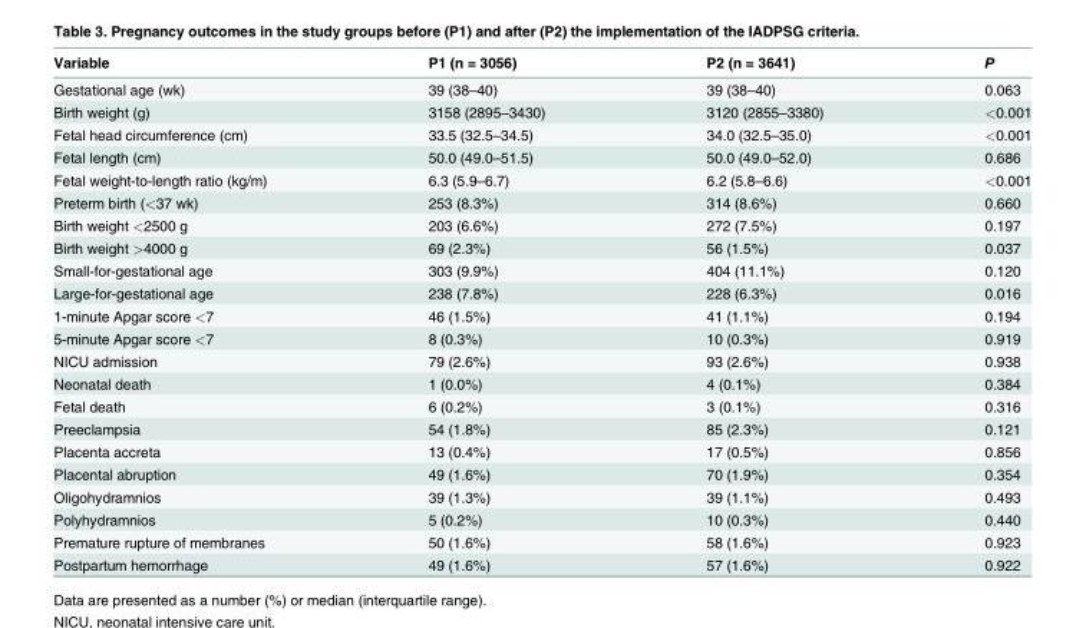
<table><thead><tr><td>Variable</td><td>P1 (n = 3056)</td><td>P2 (n = 3641)</td><td>P</td></tr></thead><tbody><tr><td>Gestational age (wk)</td><td>39 (38–40)</td><td>39 (38–40)</td><td>0.063</td></tr><tr><td>Birth weight (g)</td><td>3158 (2895–3430)</td><td>3120 (2855–3380)</td><td>&lt;0.001</td></tr><tr><td>Fetal head circumference (cm)</td><td>33.5 (32.5–34.5)</td><td>34.0 (32.5–35.0)</td><td>&lt;0.001</td></tr><tr><td>Fetal length (cm)</td><td>50.0 (49.0–51.5)</td><td>50.0 (49.0–52.0)</td><td>0.686</td></tr><tr><td>Fetal weight-to-length ratio (kg/m)</td><td>6.3 (5.9–6.7)</td><td>6.2 (5.8–6.6)</td><td>&lt;0.001</td></tr><tr><td>Preterm birth (&lt;37 wk)</td><td>253 (8.3%)</td><td>314 (8.6%)</td><td>0.660</td></tr><tr><td>Birth weight &lt;2500 g</td><td>203 (6.6%)</td><td>272 (7.5%)</td><td>0.197</td></tr><tr><td>Birth weight &gt;4000 g</td><td>69 (2.3%)</td><td>56 (1.5%)</td><td>0.037</td></tr><tr><td>Small-for-gestational age</td><td>303 (9.9%)</td><td>404 (11.1%)</td><td>0.120</td></tr><tr><td>Large-for-gestational age</td><td>238 (7.8%)</td><td>228 (6.3%)</td><td>0.016</td></tr><tr><td>1-minute Apgar score &lt;7</td><td>46 (1.5%)</td><td>41 (1.1%)</td><td>0.194</td></tr><tr><td>5-minute Apgar score &lt;7</td><td>8 (0.3%)</td><td>10 (0.3%)</td><td>0.919</td></tr><tr><td>NICU admission</td><td>79 (2.6%)</td><td>93 (2.6%)</td><td>0.938</td></tr><tr><td>Neonatal death</td><td>1 (0.0%)</td><td>4 (0.1%)</td><td>0.384</td></tr><tr><td>Fetal death</td><td>6 (0.2%)</td><td>3 (0.1%)</td><td>0.316</td></tr><tr><td>Preeclampsia</td><td>54 (1.8%)</td><td>85 (2.3%)</td><td>0.121</td></tr><tr><td>Placenta accreta</td><td>13 (0.4%)</td><td>17 (0.5%)</td><td>0.856</td></tr><tr><td>Placental abruption</td><td>49 (1.6%)</td><td>70 (1.9%)</td><td>0.354</td></tr><tr><td>Oligohydramnios</td><td>39 (1.3%)</td><td>39 (1.1%)</td><td>0.493</td></tr><tr><td>Polyhydramnios</td><td>5 (0.2%)</td><td>10 (0.3%)</td><td>0.440</td></tr><tr><td>Premature rupture of membranes</td><td>50 (1.6%)</td><td>58 (1.6%)</td><td>0.923</td></tr><tr><td>Postpartum hemorrhage</td><td>49 (1.6%)</td><td>57 (1.6%)</td><td>0.922</td></tr></tbody></table>